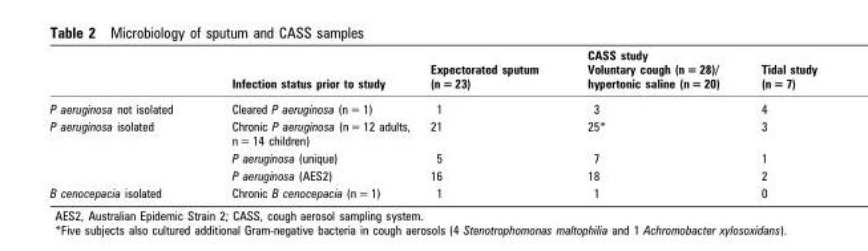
<table><thead><tr><td></td><td>Infection status prior to study</td><td>Expectorated sputum (n = 23)</td><td>CASS study Voluntary cough (n = 28)/ hypertonic saline (n = 20)</td><td>Tidal study (n = 7)</td></tr></thead><tbody><tr><td>P aeruginosa not isolated</td><td>Cleared P aeruginosa (n = 1)</td><td>1</td><td>3</td><td>4</td></tr><tr><td rowspan="3">P aeruginosa isolated</td><td>Chronic P aeruginosa (n = 12 adults, n = 14 children)</td><td>21</td><td>25*</td><td>3</td></tr><tr><td>P aeruginosa (unique)</td><td>5</td><td>7</td><td>1</td></tr><tr><td>P aeruginosa (AES2)</td><td>16</td><td>18</td><td>2</td></tr><tr><td>B cenocepacia isolated</td><td>Chronic B cenocepacia (n = 1)</td><td>1</td><td>1</td><td>0</td></tr></tbody></table>